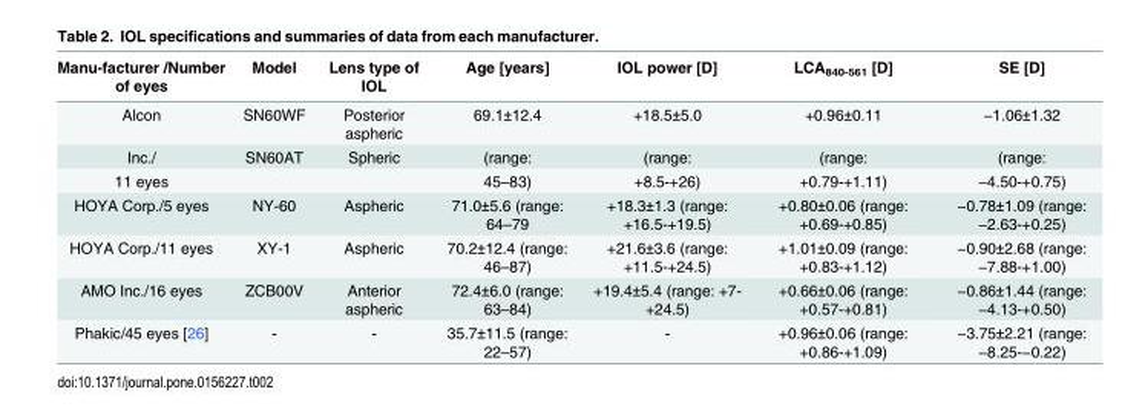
<table><thead><tr><td>Manu-facturer /Number of eyes</td><td>Model</td><td>Lens type of IOL</td><td>Age [years]</td><td>IOL power [D]</td><td>LCA<sub>840-561</sub> [D]</td><td>SE [D]</td></tr></thead><tbody><tr><td>Alcon</td><td>SN60WF</td><td>Posterior aspheric</td><td>69.1±12.4</td><td>+18.5±5.0</td><td>+0.96±0.11</td><td>−1.06±1.32</td></tr><tr><td>Inc./</td><td>SN60AT</td><td>Spheric</td><td>(range:</td><td>(range:</td><td>(range:</td><td>(range:</td></tr><tr><td>11 eyes</td><td></td><td></td><td>45–83)</td><td>+8.5-+26)</td><td>+0.79-+1.11)</td><td>−4.50-+0.75)</td></tr><tr><td>HOYA Corp./5 eyes</td><td>NY-60</td><td>Aspheric</td><td>71.0±5.6 (range: 64–79</td><td>+18.3±1.3 (range: +16.5-+19.5)</td><td>+0.80±0.06 (range: +0.69-+0.85)</td><td>−0.78±1.09 (range: −2.63-+0.25)</td></tr><tr><td>HOYA Corp./11 eyes</td><td>XY-1</td><td>Aspheric</td><td>70.2±12.4 (range: 46–87)</td><td>+21.6±3.6 (range: +11.5-+24.5)</td><td>+1.01±0.09 (range: +0.83-+1.12)</td><td>−0.90±2.68 (range: −7.88-+1.00)</td></tr><tr><td>AMO Inc./16 eyes</td><td>ZCB00V</td><td>Anterior aspheric</td><td>72.4±6.0 (range: 63–84)</td><td>+19.4±5.4 (range: +7- +24.5)</td><td>+0.66±0.06 (range: +0.57-+0.81)</td><td>−0.86±1.44 (range: −4.13-+0.50)</td></tr><tr><td>Phakic/45 eyes [26]</td><td>-</td><td>-</td><td>35.7±11.5 (range: 22–57)</td><td>-</td><td>+0.96±0.06 (range: +0.86-+1.09)</td><td>−3.75±2.21 (range: −8.25-−0.22)</td></tr></tbody></table>